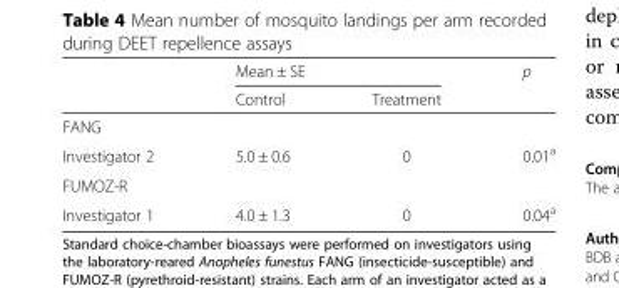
<table><thead><tr><td rowspan="2"></td><td colspan="2">Mean ± SE</td><td rowspan="2">p</td></tr><tr><td>Control</td><td>Treatment</td></tr></thead><tbody><tr><td colspan="4">FANG</td></tr><tr><td>Investigator 2</td><td>5.0 ± 0.6</td><td>0</td><td>0.01<sup>a</sup></td></tr><tr><td colspan="4">FUMOZ-R</td></tr><tr><td>Investigator 1</td><td>4.0 ± 1.3</td><td>0</td><td>0.04<sup>a</sup></td></tr></tbody></table>